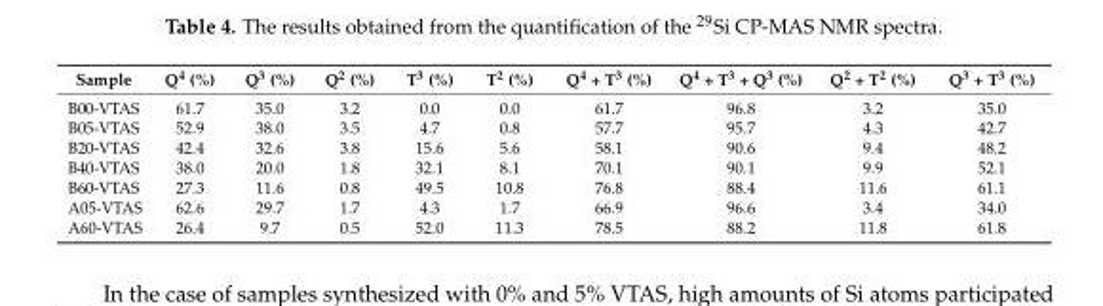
<table><thead><tr><td>Sample</td><td>Q<sup>4</sup> (%)</td><td>Q<sup>3</sup> (%)</td><td>Q<sup>2</sup> (%)</td><td>T<sup>3</sup> (%)</td><td>T<sup>2</sup> (%)</td><td>Q<sup>4</sup> + T<sup>3</sup> (%)</td><td>Q<sup>4</sup> + T<sup>3</sup> + Q<sup>3</sup> (%)</td><td>Q<sup>2</sup> + T<sup>2</sup> (%)</td><td>Q<sup>3</sup> + T<sup>3</sup> (%)</td></tr></thead><tbody><tr><td>B00-VTAS</td><td>61.7</td><td>35.0</td><td>3.2</td><td>0.0</td><td>0.0</td><td>61.7</td><td>96.8</td><td>3.2</td><td>35.0</td></tr><tr><td>B05-VTAS</td><td>52.9</td><td>38.0</td><td>3.5</td><td>4.7</td><td>0.8</td><td>57.7</td><td>95.7</td><td>4.3</td><td>42.7</td></tr><tr><td>B20-VTAS</td><td>42.4</td><td>32.6</td><td>3.8</td><td>15.6</td><td>5.6</td><td>58.1</td><td>90.6</td><td>9.4</td><td>48.2</td></tr><tr><td>B40-VTAS</td><td>38.0</td><td>20.0</td><td>1.8</td><td>32.1</td><td>8.1</td><td>70.1</td><td>90.1</td><td>9.9</td><td>52.1</td></tr><tr><td>B60-VTAS</td><td>27.3</td><td>11.6</td><td>0.8</td><td>49.5</td><td>10.8</td><td>76.8</td><td>88.4</td><td>11.6</td><td>61.1</td></tr><tr><td>A05-VTAS</td><td>62.6</td><td>29.7</td><td>1.7</td><td>4.3</td><td>1.7</td><td>66.9</td><td>96.6</td><td>3.4</td><td>34.0</td></tr><tr><td>A60-VTAS</td><td>26.4</td><td>9.7</td><td>0.5</td><td>52.0</td><td>11.3</td><td>78.5</td><td>88.2</td><td>11.8</td><td>61.8</td></tr></tbody></table>